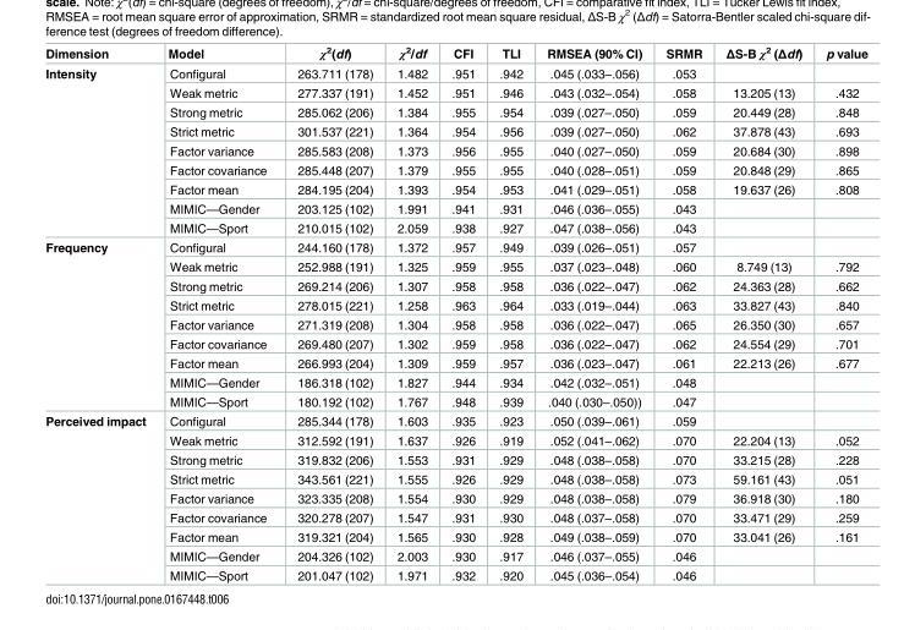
<table><thead><tr><td>Dimension</td><td>Model</td><td>χ<sup>2</sup>(df)</td><td>χ<sup>2</sup>/df</td><td>CFI</td><td>TLI</td><td>RMSEA (90% CI)</td><td>SRMR</td><td>ΔS-B χ<sup>2</sup> (Δdf)</td><td>p value</td></tr></thead><tbody><tr><td rowspan="9">Intensity</td><td>Configural</td><td>263.711 (178)</td><td>1.482</td><td>.951</td><td>.942</td><td>.045 (.033–.056)</td><td>.053</td><td></td><td></td></tr><tr><td>Weak metric</td><td>277.337 (191)</td><td>1.452</td><td>.951</td><td>.946</td><td>.043 (.032–.054)</td><td>.058</td><td>13.205 (13)</td><td>.432</td></tr><tr><td>Strong metric</td><td>285.062 (206)</td><td>1.384</td><td>.955</td><td>.954</td><td>.039 (.027–.050)</td><td>.059</td><td>20.449 (28)</td><td>.848</td></tr><tr><td>Strict metric</td><td>301.537 (221)</td><td>1.364</td><td>.954</td><td>.956</td><td>.039 (.027–.050)</td><td>.062</td><td>37.878 (43)</td><td>.693</td></tr><tr><td>Factor variance</td><td>285.583 (208)</td><td>1.373</td><td>.956</td><td>.955</td><td>.040 (.027–.050)</td><td>.059</td><td>20.684 (30)</td><td>.898</td></tr><tr><td>Factor covariance</td><td>285.448 (207)</td><td>1.379</td><td>.955</td><td>.955</td><td>.040 (.028–.051)</td><td>.059</td><td>20.848 (29)</td><td>.865</td></tr><tr><td>Factor mean</td><td>284.195 (204)</td><td>1.393</td><td>.954</td><td>.953</td><td>.041 (.029–.051)</td><td>.058</td><td>19.637 (26)</td><td>.808</td></tr><tr><td>MIMIC—Gender</td><td>203.125 (102)</td><td>1.991</td><td>.941</td><td>.931</td><td>.046 (.036–.055)</td><td>.043</td><td></td><td></td></tr><tr><td>MIMIC—Sport</td><td>210.015 (102)</td><td>2.059</td><td>.938</td><td>.927</td><td>.047 (.038–.056)</td><td>.043</td><td></td><td></td></tr><tr><td rowspan="9">Frequency</td><td>Configural</td><td>244.160 (178)</td><td>1.372</td><td>.957</td><td>.949</td><td>.039 (.026–.051)</td><td>.057</td><td></td><td></td></tr><tr><td>Weak metric</td><td>252.988 (191)</td><td>1.325</td><td>.959</td><td>.955</td><td>.037 (.023–.048)</td><td>.060</td><td>8.749 (13)</td><td>.792</td></tr><tr><td>Strong metric</td><td>269.214 (206)</td><td>1.307</td><td>.958</td><td>.958</td><td>.036 (.022–.047)</td><td>.062</td><td>24.363 (28)</td><td>.662</td></tr><tr><td>Strict metric</td><td>278.015 (221)</td><td>1.258</td><td>.963</td><td>.964</td><td>.033 (.019–.044)</td><td>.063</td><td>33.827 (43)</td><td>.840</td></tr><tr><td>Factor variance</td><td>271.319 (208)</td><td>1.304</td><td>.958</td><td>.958</td><td>.036 (.022–.047)</td><td>.065</td><td>26.350 (30)</td><td>.657</td></tr><tr><td>Factor covariance</td><td>269.480 (207)</td><td>1.302</td><td>.959</td><td>.958</td><td>.036 (.022–.047)</td><td>.062</td><td>24.554 (29)</td><td>.701</td></tr><tr><td>Factor mean</td><td>266.993 (204)</td><td>1.309</td><td>.959</td><td>.957</td><td>.036 (.023–.047)</td><td>.061</td><td>22.213 (26)</td><td>.677</td></tr><tr><td>MIMIC—Gender</td><td>186.318 (102)</td><td>1.827</td><td>.944</td><td>.934</td><td>.042 (.032–.051)</td><td>.048</td><td></td><td></td></tr><tr><td>MIMIC—Sport</td><td>180.192 (102)</td><td>1.767</td><td>.948</td><td>.939</td><td>.040 (.030–.050))</td><td>.047</td><td></td><td></td></tr><tr><td rowspan="9">Perceived impact</td><td>Configural</td><td>285.344 (178)</td><td>1.603</td><td>.935</td><td>.923</td><td>.050 (.039–.061)</td><td>.059</td><td></td><td></td></tr><tr><td>Weak metric</td><td>312.592 (191)</td><td>1.637</td><td>.926</td><td>.919</td><td>.052 (.041–.062)</td><td>.070</td><td>22.204 (13)</td><td>.052</td></tr><tr><td>Strong metric</td><td>319.832 (206)</td><td>1.553</td><td>.931</td><td>.929</td><td>.048 (.038–.058)</td><td>.070</td><td>33.215 (28)</td><td>.228</td></tr><tr><td>Strict metric</td><td>343.561 (221)</td><td>1.555</td><td>.926</td><td>.929</td><td>.048 (.038–.058)</td><td>.073</td><td>59.161 (43)</td><td>.051</td></tr><tr><td>Factor variance</td><td>323.335 (208)</td><td>1.554</td><td>.930</td><td>.929</td><td>.048 (.038–.058)</td><td>.079</td><td>36.918 (30)</td><td>.180</td></tr><tr><td>Factor covariance</td><td>320.278 (207)</td><td>1.547</td><td>.931</td><td>.930</td><td>.048 (.037–.058)</td><td>.070</td><td>33.471 (29)</td><td>.259</td></tr><tr><td>Factor mean</td><td>319.321 (204)</td><td>1.565</td><td>.930</td><td>.928</td><td>.049 (.038–.059)</td><td>.070</td><td>33.041 (26)</td><td>.161</td></tr><tr><td>MIMIC—Gender</td><td>204.326 (102)</td><td>2.003</td><td>.930</td><td>.917</td><td>.046 (.037–.055)</td><td>.046</td><td></td><td></td></tr><tr><td>MIMIC—Sport</td><td>201.047 (102)</td><td>1.971</td><td>.932</td><td>.920</td><td>.045 (.036–.054)</td><td>.046</td><td></td><td></td></tr></tbody></table>